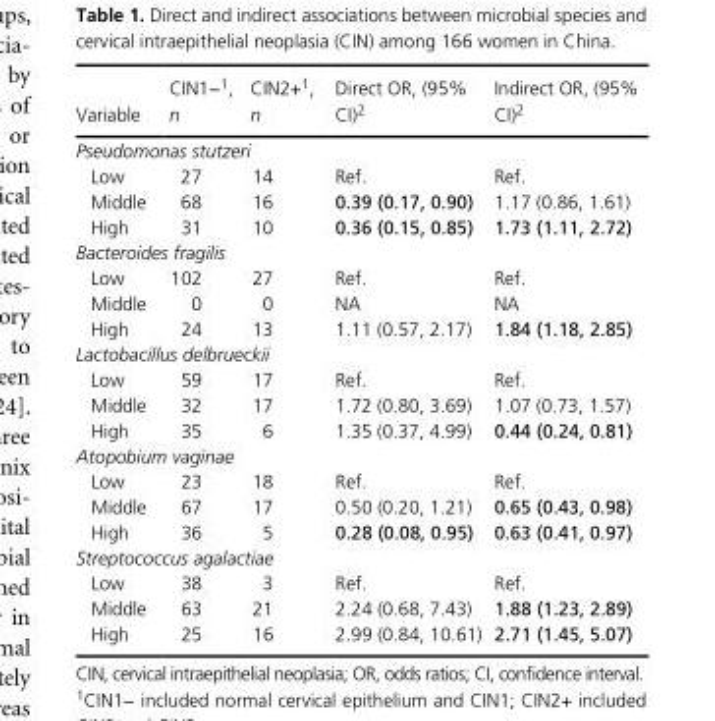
<table><thead><tr><td>Variable</td><td>CIN1−1, n</td><td>CIN2+1, n</td><td>Direct OR, (95% CI)2</td><td>Indirect OR, (95% CI)2</td></tr></thead><tbody><tr><td colspan="5">Pseudomonas stutzeri</td></tr><tr><td>Low</td><td>27</td><td>14</td><td>Ref.</td><td>Ref.</td></tr><tr><td>Middle</td><td>68</td><td>16</td><td>0.39 (0.17, 0.90)</td><td>1.17 (0.86, 1.61)</td></tr><tr><td>High</td><td>31</td><td>10</td><td>0.36 (0.15, 0.85)</td><td>1.73 (1.11, 2.72)</td></tr><tr><td colspan="5">Bacteroides fragilis</td></tr><tr><td>Low</td><td>102</td><td>27</td><td>Ref.</td><td>Ref.</td></tr><tr><td>Middle</td><td>0</td><td>0</td><td>NA</td><td>NA</td></tr><tr><td>High</td><td>24</td><td>13</td><td>1.11 (0.57, 2.17)</td><td>1.84 (1.18, 2.85)</td></tr><tr><td colspan="5">Lactobacillus delbrueckii</td></tr><tr><td>Low</td><td>59</td><td>17</td><td>Ref.</td><td>Ref.</td></tr><tr><td>Middle</td><td>32</td><td>17</td><td>1.72 (0.80, 3.69)</td><td>1.07 (0.73, 1.57)</td></tr><tr><td>High</td><td>35</td><td>6</td><td>1.35 (0.37, 4.99)</td><td>0.44 (0.24, 0.81)</td></tr><tr><td colspan="5">Atopobium vaginae</td></tr><tr><td>Low</td><td>23</td><td>18</td><td>Ref.</td><td>Ref.</td></tr><tr><td>Middle</td><td>67</td><td>17</td><td>0.50 (0.20, 1.21)</td><td>0.65 (0.43, 0.98)</td></tr><tr><td>High</td><td>36</td><td>5</td><td>0.28 (0.08, 0.95)</td><td>0.63 (0.41, 0.97)</td></tr><tr><td colspan="5">Streptococcus agalactiae</td></tr><tr><td>Low</td><td>38</td><td>3</td><td>Ref.</td><td>Ref.</td></tr><tr><td>Middle</td><td>63</td><td>21</td><td>2.24 (0.68, 7.43)</td><td>1.88 (1.23, 2.89)</td></tr><tr><td>High</td><td>25</td><td>16</td><td>2.99 (0.84, 10.61)</td><td>2.71 (1.45, 5.07)</td></tr></tbody></table>